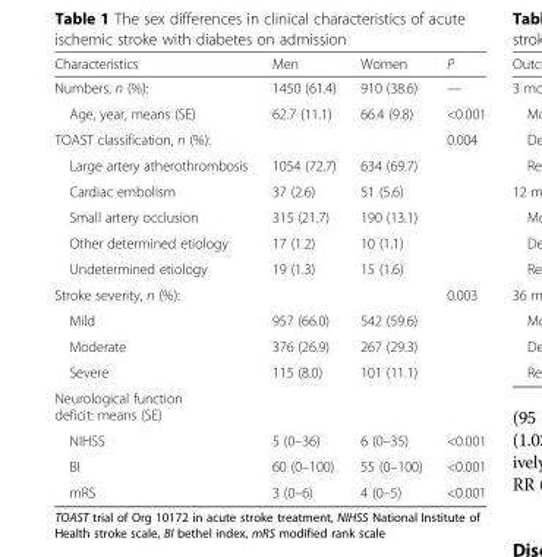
<table><thead><tr><td>Characteristics</td><td>Men</td><td>Women</td><td>P</td></tr></thead><tbody><tr><td>Numbers, n (%):</td><td>1450 (61.4)</td><td>910 (38.6)</td><td>—</td></tr><tr><td>Age, year, means (SE)</td><td>62.7 (11.1)</td><td>66.4 (9.8)</td><td>&lt;0.001</td></tr><tr><td>TOAST classification, n (%):</td><td></td><td></td><td>0.004</td></tr><tr><td>Large artery atherothrombosis</td><td>1054 (72.7)</td><td>634 (69.7)</td><td></td></tr><tr><td>Cardiac embolism</td><td>37 (2.6)</td><td>51 (5.6)</td><td></td></tr><tr><td>Small artery occlusion</td><td>315 (21.7)</td><td>190 (13.1)</td><td></td></tr><tr><td>Other determined etiology</td><td>17 (1.2)</td><td>10 (1.1)</td><td></td></tr><tr><td>Undetermined etiology</td><td>19 (1.3)</td><td>15 (1.6)</td><td></td></tr><tr><td>Stroke severity, n (%):</td><td></td><td></td><td>0.003</td></tr><tr><td>Mild</td><td>957 (66.0)</td><td>542 (59.6)</td><td></td></tr><tr><td>Moderate</td><td>376 (26.9)</td><td>267 (29.3)</td><td></td></tr><tr><td>Severe</td><td>115 (8.0)</td><td>101 (11.1)</td><td></td></tr><tr><td colspan="4">Neurological function deficit: means (SE)</td></tr><tr><td>NIHSS</td><td>5 (0–36)</td><td>6 (0–35)</td><td>&lt;0.001</td></tr><tr><td>BI</td><td>60 (0–100)</td><td>55 (0–100)</td><td>&lt;0.001</td></tr><tr><td>mRS</td><td>3 (0–6)</td><td>4 (0–5)</td><td>&lt;0.001</td></tr></tbody></table>